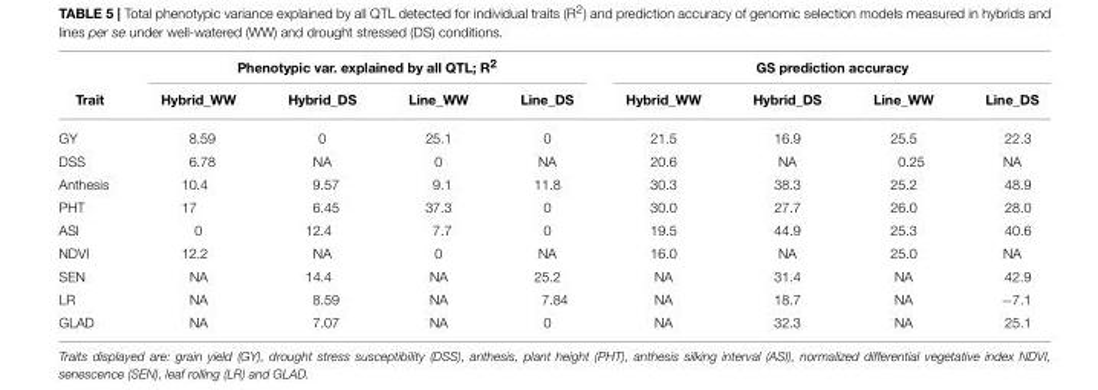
<table><thead><tr><td rowspan="2">Trait</td><td colspan="4">Phenotypic var. explained by all QTL; R<sup>2</sup></td><td colspan="4">GS prediction accuracy</td></tr><tr><td>Hybrid_WW</td><td>Hybrid_DS</td><td>Line_WW</td><td>Line_DS</td><td>Hybrid_WW</td><td>Hybrid_DS</td><td>Line_WW</td><td>Line_DS</td></tr></thead><tbody><tr><td>GY</td><td>8.59</td><td>0</td><td>25.1</td><td>0</td><td>21.5</td><td>16.9</td><td>25.5</td><td>22.3</td></tr><tr><td>DSS</td><td>6.78</td><td>NA</td><td>0</td><td>NA</td><td>20.6</td><td>NA</td><td>0.25</td><td>NA</td></tr><tr><td>Anthesis</td><td>10.4</td><td>9.57</td><td>9.1</td><td>11.8</td><td>30.3</td><td>38.3</td><td>25.2</td><td>48.9</td></tr><tr><td>PHT</td><td>17</td><td>6.45</td><td>37.3</td><td>0</td><td>30.0</td><td>27.7</td><td>26.0</td><td>28.0</td></tr><tr><td>ASI</td><td>0</td><td>12.4</td><td>7.7</td><td>0</td><td>19.5</td><td>44.9</td><td>25.3</td><td>40.6</td></tr><tr><td>NDVI</td><td>12.2</td><td>NA</td><td>0</td><td>NA</td><td>16.0</td><td>NA</td><td>25.0</td><td>NA</td></tr><tr><td>SEN</td><td>NA</td><td>14.4</td><td>NA</td><td>25.2</td><td>NA</td><td>31.4</td><td>NA</td><td>42.9</td></tr><tr><td>LR</td><td>NA</td><td>8.59</td><td>NA</td><td>7.84</td><td>NA</td><td>18.7</td><td>NA</td><td>−7.1</td></tr><tr><td>GLAD</td><td>NA</td><td>7.07</td><td>NA</td><td>0</td><td>NA</td><td>32.3</td><td>NA</td><td>25.1</td></tr></tbody></table>